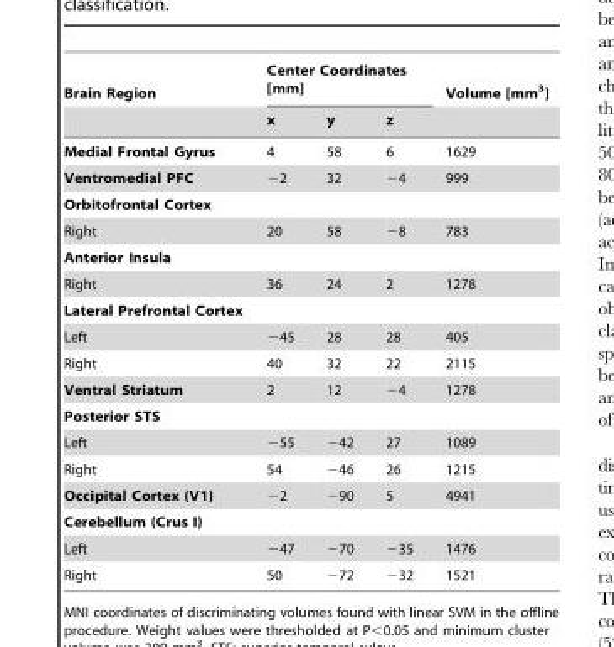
<table><thead><tr><td rowspan="2">Brain Region</td><td colspan="3">Center Coordinates [mm]</td><td rowspan="2">Volume [mm<sup>3</sup>]</td></tr><tr><td>x</td><td>y</td><td>z</td></tr></thead><tbody><tr><td>Medial Frontal Gyrus</td><td>4</td><td>58</td><td>6</td><td>1629</td></tr><tr><td>Ventromedial PFC</td><td>−2</td><td>32</td><td>−4</td><td>999</td></tr><tr><td colspan="5">Orbitofrontal Cortex</td></tr><tr><td>Right</td><td>20</td><td>58</td><td>−8</td><td>783</td></tr><tr><td colspan="5">Anterior Insula</td></tr><tr><td>Right</td><td>36</td><td>24</td><td>2</td><td>1278</td></tr><tr><td colspan="5">Lateral Prefrontal Cortex</td></tr><tr><td>Left</td><td>−45</td><td>28</td><td>28</td><td>405</td></tr><tr><td>Right</td><td>40</td><td>32</td><td>22</td><td>2115</td></tr><tr><td>Ventral Striatum</td><td>2</td><td>12</td><td>−4</td><td>1278</td></tr><tr><td colspan="5">Posterior STS</td></tr><tr><td>Left</td><td>−55</td><td>−42</td><td>27</td><td>1089</td></tr><tr><td>Right</td><td>54</td><td>−46</td><td>26</td><td>1215</td></tr><tr><td>Occipital Cortex (V1)</td><td>−2</td><td>−90</td><td>5</td><td>4941</td></tr><tr><td colspan="5">Cerebellum (Crus I)</td></tr><tr><td>Left</td><td>−47</td><td>−70</td><td>−35</td><td>1476</td></tr><tr><td>Right</td><td>50</td><td>−72</td><td>−32</td><td>1521</td></tr></tbody></table>